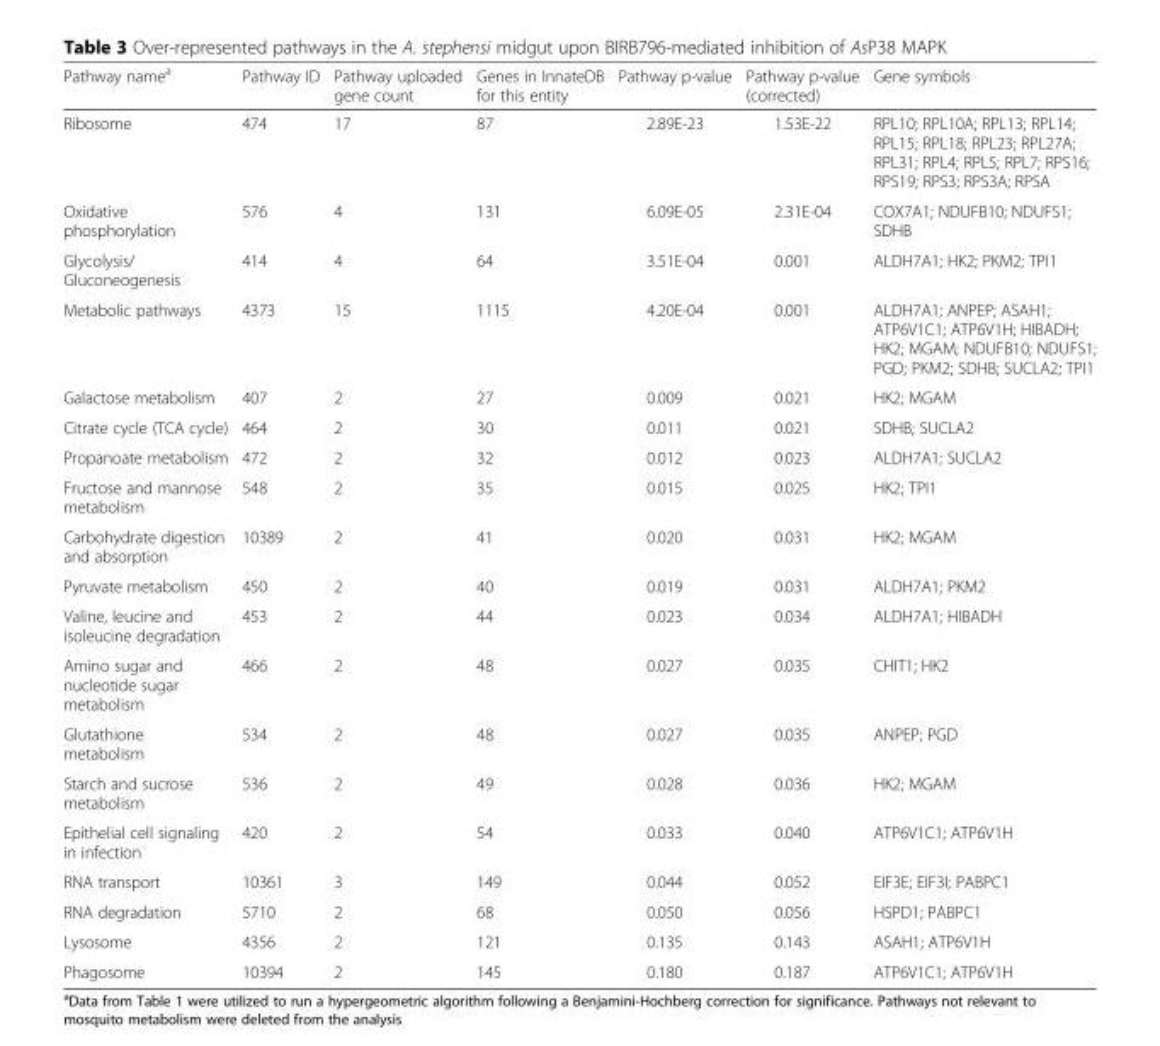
<table><thead><tr><td>Pathway name<sup>a</sup></td><td>Pathway ID</td><td>Pathway uploaded gene count</td><td>Genes in InnateDB for this entity</td><td>Pathway p-value</td><td>Pathway p-value (corrected)</td><td>Gene symbols</td></tr></thead><tbody><tr><td>Ribosome</td><td>474</td><td>17</td><td>87</td><td>2.89E-23</td><td>1.53E-22</td><td>RPL10; RPL10A; RPL13; RPL14; RPL15; RPL18; RPL23; RPL27A; RPL31; RPL4; RPL5; RPL7; RPS16; RPS19; RPS3; RPS3A; RPSA</td></tr><tr><td>Oxidative phosphorylation</td><td>576</td><td>4</td><td>131</td><td>6.09E-05</td><td>2.31E-04</td><td>COX7A1; NDUFB10; NDUFS1; SDHB</td></tr><tr><td>Glycolysis/ Gluconeogenesis</td><td>414</td><td>4</td><td>64</td><td>3.51E-04</td><td>0.001</td><td>ALDH7A1; HK2; PKM2; TPI1</td></tr><tr><td>Metabolic pathways</td><td>4373</td><td>15</td><td>1115</td><td>4.20E-04</td><td>0.001</td><td>ALDH7A1; ANPEP; ASAH1; ATP6V1C1; ATP6V1H; HIBADH; HK2; MGAM; NDUFB10; NDUFS1; PGD; PKM2; SDHB; SUCLA2; TPI1</td></tr><tr><td>Galactose metabolism</td><td>407</td><td>2</td><td>27</td><td>0.009</td><td>0.021</td><td>HK2; MGAM</td></tr><tr><td>Citrate cycle (TCA cycle)</td><td>464</td><td>2</td><td>30</td><td>0.011</td><td>0.021</td><td>SDHB; SUCLA2</td></tr><tr><td>Propanoate metabolism</td><td>472</td><td>2</td><td>32</td><td>0.012</td><td>0.023</td><td>ALDH7A1; SUCLA2</td></tr><tr><td>Fructose and mannose metabolism</td><td>548</td><td>2</td><td>35</td><td>0.015</td><td>0.025</td><td>HK2; TPI1</td></tr><tr><td>Carbohydrate digestion and absorption</td><td>10389</td><td>2</td><td>41</td><td>0.020</td><td>0.031</td><td>HK2; MGAM</td></tr><tr><td>Pyruvate metabolism</td><td>450</td><td>2</td><td>40</td><td>0.019</td><td>0.031</td><td>ALDH7A1; PKM2</td></tr><tr><td>Valine, leucine and isoleucine degradation</td><td>453</td><td>2</td><td>44</td><td>0.023</td><td>0.034</td><td>ALDH7A1; HIBADH</td></tr><tr><td>Amino sugar and nucleotide sugar metabolism</td><td>466</td><td>2</td><td>48</td><td>0.027</td><td>0.035</td><td>CHIT1; HK2</td></tr><tr><td>Glutathione metabolism</td><td>534</td><td>2</td><td>48</td><td>0.027</td><td>0.035</td><td>ANPEP; PGD</td></tr><tr><td>Starch and sucrose metabolism</td><td>536</td><td>2</td><td>49</td><td>0.028</td><td>0.036</td><td>HK2; MGAM</td></tr><tr><td>Epithelial cell signaling in infection</td><td>420</td><td>2</td><td>54</td><td>0.033</td><td>0.040</td><td>ATP6V1C1; ATP6V1H</td></tr><tr><td>RNA transport</td><td>10361</td><td>3</td><td>149</td><td>0.044</td><td>0.052</td><td>EIF3E; EIF3I; PABPC1</td></tr><tr><td>RNA degradation</td><td>5710</td><td>2</td><td>68</td><td>0.050</td><td>0.056</td><td>HSPD1; PABPC1</td></tr><tr><td>Lysosome</td><td>4356</td><td>2</td><td>121</td><td>0.135</td><td>0.143</td><td>ASAH1; ATP6V1H</td></tr><tr><td>Phagosome</td><td>10394</td><td>2</td><td>145</td><td>0.180</td><td>0.187</td><td>ATP6V1C1; ATP6V1H</td></tr></tbody></table>